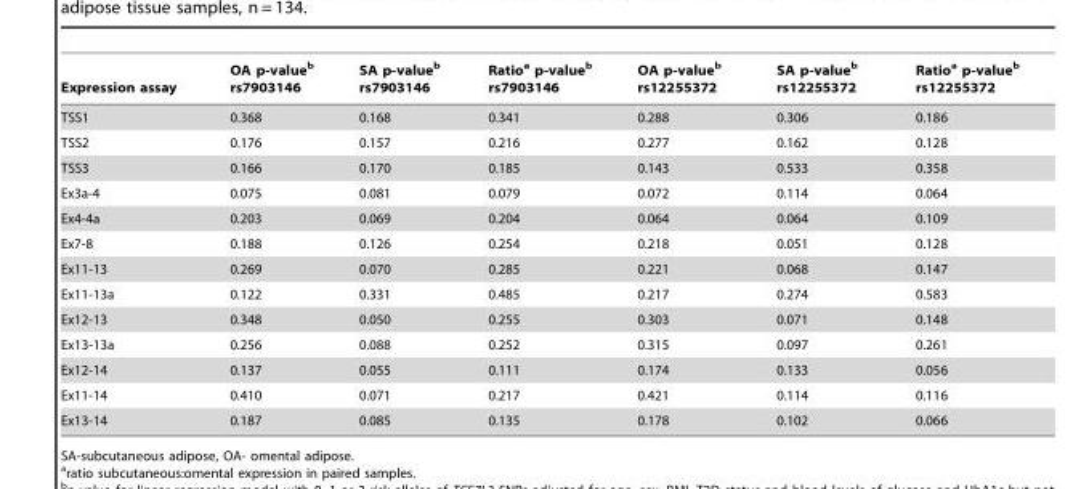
<table><thead><tr><td>Expression assay</td><td>OA p-value<sup>b</sup> rs7903146</td><td>SA p-value<sup>b</sup> rs7903146</td><td>Ratio<sup>a</sup> p-value<sup>b</sup> rs7903146</td><td>OA p-value<sup>b</sup> rs12255372</td><td>SA p-value<sup>b</sup> rs12255372</td><td>Ratio<sup>a</sup> p-value<sup>b</sup> rs12255372</td></tr></thead><tbody><tr><td>TSS1</td><td>0.368</td><td>0.168</td><td>0.341</td><td>0.288</td><td>0.306</td><td>0.186</td></tr><tr><td>TSS2</td><td>0.176</td><td>0.157</td><td>0.216</td><td>0.277</td><td>0.162</td><td>0.128</td></tr><tr><td>TSS3</td><td>0.166</td><td>0.170</td><td>0.185</td><td>0.143</td><td>0.533</td><td>0.358</td></tr><tr><td>Ex3a-4</td><td>0.075</td><td>0.081</td><td>0.079</td><td>0.072</td><td>0.114</td><td>0.064</td></tr><tr><td>Ex4-4a</td><td>0.203</td><td>0.069</td><td>0.204</td><td>0.064</td><td>0.064</td><td>0.109</td></tr><tr><td>Ex7-8</td><td>0.188</td><td>0.126</td><td>0.254</td><td>0.218</td><td>0.051</td><td>0.128</td></tr><tr><td>Ex11-13</td><td>0.269</td><td>0.070</td><td>0.285</td><td>0.221</td><td>0.068</td><td>0.147</td></tr><tr><td>Ex11-13a</td><td>0.122</td><td>0.331</td><td>0.485</td><td>0.217</td><td>0.274</td><td>0.583</td></tr><tr><td>Ex12-13</td><td>0.348</td><td>0.050</td><td>0.255</td><td>0.303</td><td>0.071</td><td>0.148</td></tr><tr><td>Ex13-13a</td><td>0.256</td><td>0.088</td><td>0.252</td><td>0.315</td><td>0.097</td><td>0.261</td></tr><tr><td>Ex12-14</td><td>0.137</td><td>0.055</td><td>0.111</td><td>0.174</td><td>0.133</td><td>0.056</td></tr><tr><td>Ex11-14</td><td>0.410</td><td>0.071</td><td>0.217</td><td>0.421</td><td>0.114</td><td>0.116</td></tr><tr><td>Ex13-14</td><td>0.187</td><td>0.085</td><td>0.135</td><td>0.178</td><td>0.102</td><td>0.066</td></tr></tbody></table>